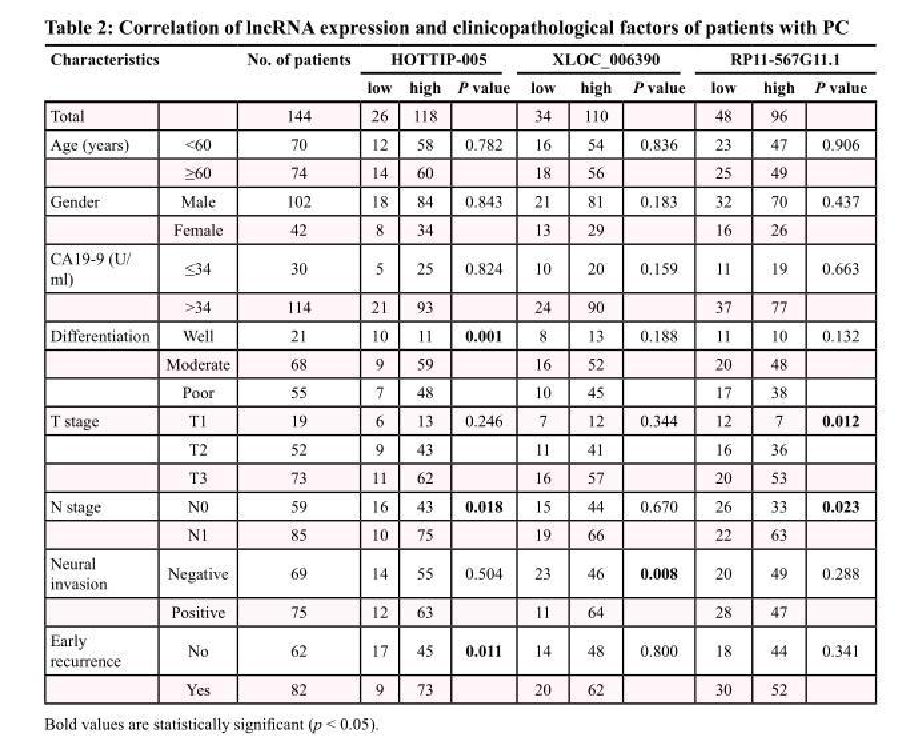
<table><thead><tr><td rowspan="2" colspan="2">Characteristics</td><td rowspan="3">No. of patients 144</td><td colspan="3">HOTTIP-005</td><td colspan="3">XLOC_006390</td><td colspan="3">RP11-567G11.1</td></tr><tr><td rowspan="2">low 26</td><td rowspan="2">high 118</td><td rowspan="2">P value</td><td rowspan="2">low 34</td><td rowspan="2">high 110</td><td rowspan="2">P value</td><td rowspan="2">low 48</td><td rowspan="2">high 96</td><td rowspan="2">P value</td></tr><tr><td>Total</td><td></td></tr></thead><tbody><tr><td rowspan="2">Age (years)</td><td>&lt;60</td><td>70</td><td>12</td><td>58</td><td>0.782</td><td>16</td><td>54</td><td>0.836</td><td>23</td><td>47</td><td>0.906</td></tr><tr><td>≥60</td><td>74</td><td>14</td><td>60</td><td></td><td>18</td><td>56</td><td></td><td>25</td><td>49</td><td></td></tr><tr><td rowspan="2">Gender</td><td>Male</td><td>102</td><td>18</td><td>84</td><td>0.843</td><td>21</td><td>81</td><td>0.183</td><td>32</td><td>70</td><td>0.437</td></tr><tr><td>Female</td><td>42</td><td>8</td><td>34</td><td></td><td>13</td><td>29</td><td></td><td>16</td><td>26</td><td></td></tr><tr><td rowspan="2">CA19-9 (U/ ml)</td><td>≤34</td><td>30</td><td>5</td><td>25</td><td>0.824</td><td>10</td><td>20</td><td>0.159</td><td>11</td><td>19</td><td>0.663</td></tr><tr><td>&gt;34</td><td>114</td><td>21</td><td>93</td><td></td><td>24</td><td>90</td><td></td><td>37</td><td>77</td><td></td></tr><tr><td rowspan="3">Differentiation</td><td>Well</td><td>21</td><td>10</td><td>11</td><td>0.001</td><td>8</td><td>13</td><td>0.188</td><td>11</td><td>10</td><td>0.132</td></tr><tr><td>Moderate</td><td>68</td><td>9</td><td>59</td><td></td><td>16</td><td>52</td><td></td><td>20</td><td>48</td><td></td></tr><tr><td>Poor</td><td>55</td><td>7</td><td>48</td><td></td><td>10</td><td>45</td><td></td><td>17</td><td>38</td><td></td></tr><tr><td rowspan="3">T stage</td><td>T1</td><td>19</td><td>6</td><td>13</td><td>0.246</td><td>7</td><td>12</td><td>0.344</td><td>12</td><td>7</td><td>0.012</td></tr><tr><td>T2</td><td>52</td><td>9</td><td>43</td><td></td><td>11</td><td>41</td><td></td><td>16</td><td>36</td><td></td></tr><tr><td>T3</td><td>73</td><td>11</td><td>62</td><td></td><td>16</td><td>57</td><td></td><td>20</td><td>53</td><td></td></tr><tr><td rowspan="2">N stage</td><td>N0</td><td>59</td><td>16</td><td>43</td><td>0.018</td><td>15</td><td>44</td><td>0.670</td><td>26</td><td>33</td><td>0.023</td></tr><tr><td>N1</td><td>85</td><td>10</td><td>75</td><td></td><td>19</td><td>66</td><td></td><td>22</td><td>63</td><td></td></tr><tr><td rowspan="2">Neural invasion</td><td>Negative</td><td>69</td><td>14</td><td>55</td><td>0.504</td><td>23</td><td>46</td><td>0.008</td><td>20</td><td>49</td><td>0.288</td></tr><tr><td>Positive</td><td>75</td><td>12</td><td>63</td><td></td><td>11</td><td>64</td><td></td><td>28</td><td>47</td><td></td></tr><tr><td rowspan="2">Early recurrence</td><td>No</td><td>62</td><td>17</td><td>45</td><td>0.011</td><td>14</td><td>48</td><td>0.800</td><td>18</td><td>44</td><td>0.341</td></tr><tr><td>Yes</td><td>82</td><td>9</td><td>73</td><td></td><td>20</td><td>62</td><td></td><td>30</td><td>52</td><td></td></tr></tbody></table>